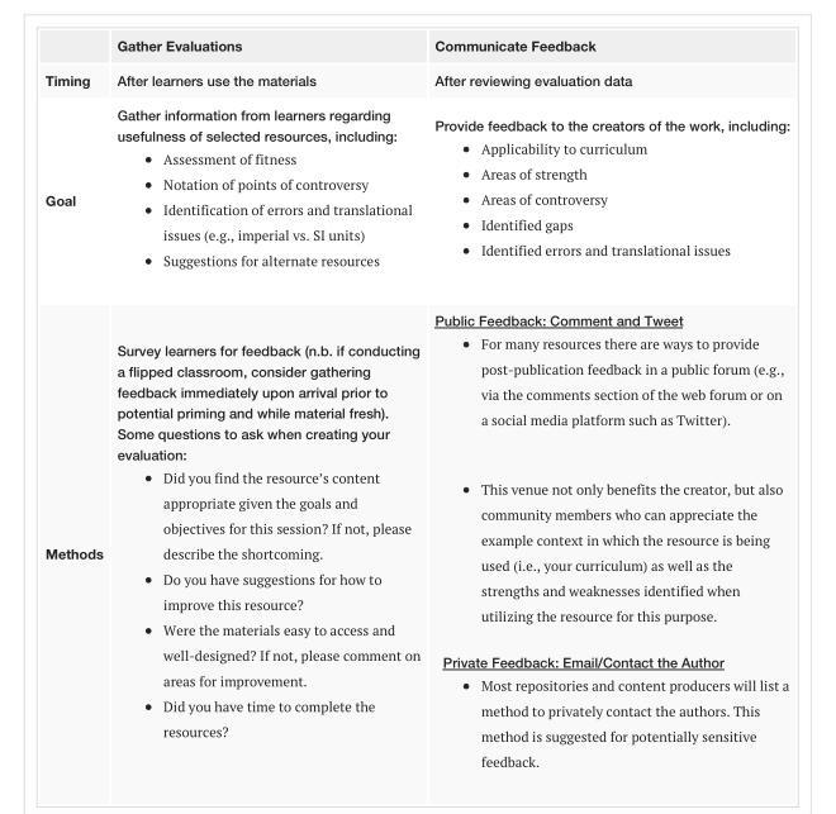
<table><thead><tr><td></td><td>Gather Evaluations</td><td>Communicate Feedback</td></tr></thead><tbody><tr><td>Timing</td><td>After learners use the materials</td><td>After reviewing evaluation data</td></tr><tr><td>Goal</td><td>Gather information from learners regarding usefulness of selected resources, including: Assessment of fitness Notation of points of controversy Identification of errors and translational issues (e.g., imperial vs. SI units) Suggestions for alternate resources</td><td>Provide feedback to the creators of the work, including: Applicability to curriculum Areas of strength Areas of controversy Identified gaps Identified errors and translational issues</td></tr><tr><td>Methods</td><td>Survey learners for feedback (n.b. if conducting a flipped classroom, consider gathering feedback immediately upon arrival prior to potential priming and while material fresh). Some questions to ask when creating your evaluation: Did you find the resource’s content appropriate given the goals and objectives for this session? If not, please describe the shortcoming. Do you have suggestions for how to improve this resource? Were the materials easy to access and well-designed? If not, please comment on areas for improvement. Did you have time to complete the resources?</td><td>Public Feedback: Comment and Tweet For many resources there are ways to provide post-publication feedback in a public forum (e.g., via the comments section of the web forum or on a social media platform such as Twitter). This venue not only benefits the creator, but also community members who can appreciate the example context in which the resource is being used (i.e., your curriculum) as well as the strengths and weaknesses identified when utilizing the resource for this purpose. Private Feedback: Email/Contact the Author Most repositories and content producers will list a method to privately contact the authors. This method is suggested for potentially sensitive feedback.</td></tr></tbody></table>